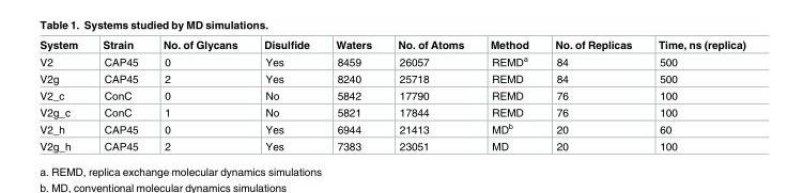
<table><thead><tr><td>System</td><td>Strain</td><td>No. of Glycans</td><td>Disulfide</td><td>Waters</td><td>No. of Atoms</td><td>Method</td><td>No. of Replicas</td><td>Time, ns (replica)</td></tr></thead><tbody><tr><td>V2</td><td>CAP45</td><td>0</td><td>Yes</td><td>8459</td><td>26057</td><td>REMD<sup>a</sup></td><td>84</td><td>500</td></tr><tr><td>V2g</td><td>CAP45</td><td>2</td><td>Yes</td><td>8240</td><td>25718</td><td>REMD</td><td>84</td><td>500</td></tr><tr><td>V2_c</td><td>ConC</td><td>0</td><td>No</td><td>5842</td><td>17790</td><td>REMD</td><td>76</td><td>100</td></tr><tr><td>V2g_c</td><td>ConC</td><td>1</td><td>No</td><td>5821</td><td>17844</td><td>REMD</td><td>76</td><td>100</td></tr><tr><td>V2_h</td><td>CAP45</td><td>0</td><td>Yes</td><td>6944</td><td>21413</td><td>MD<sup>b</sup></td><td>20</td><td>60</td></tr><tr><td>V2g_h</td><td>CAP45</td><td>2</td><td>Yes</td><td>7383</td><td>23051</td><td>MD</td><td>20</td><td>100</td></tr></tbody></table>